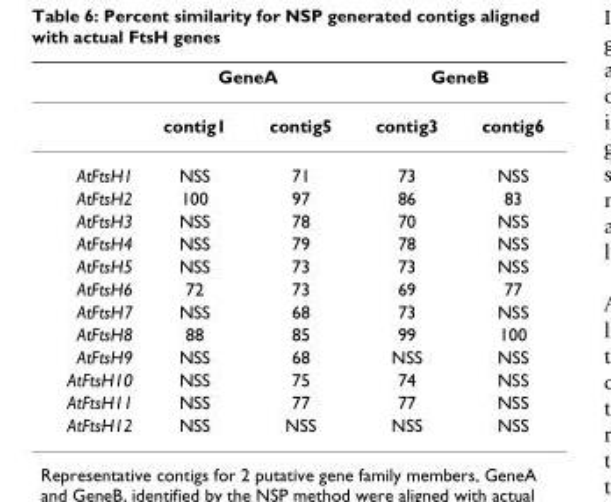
<table><thead><tr><td rowspan="2"></td><td colspan="2">GeneA</td><td colspan="2">GeneB</td></tr><tr><td>contig1</td><td>contig5</td><td>contig3</td><td>contig6</td></tr></thead><tbody><tr><td>AtFtsH1</td><td>NSS</td><td>71</td><td>73</td><td>NSS</td></tr><tr><td>AtFtsH2</td><td>100</td><td>97</td><td>86</td><td>83</td></tr><tr><td>AtFtsH3</td><td>NSS</td><td>78</td><td>70</td><td>NSS</td></tr><tr><td>AtFtsH4</td><td>NSS</td><td>79</td><td>78</td><td>NSS</td></tr><tr><td>AtFtsH5</td><td>NSS</td><td>73</td><td>73</td><td>NSS</td></tr><tr><td>AtFtsH6</td><td>72</td><td>73</td><td>69</td><td>77</td></tr><tr><td>AtFtsH7</td><td>NSS</td><td>68</td><td>73</td><td>NSS</td></tr><tr><td>AtFtsH8</td><td>88</td><td>85</td><td>99</td><td>100</td></tr><tr><td>AtFtsH9</td><td>NSS</td><td>68</td><td>NSS</td><td>NSS</td></tr><tr><td>AtFtsH10</td><td>NSS</td><td>75</td><td>74</td><td>NSS</td></tr><tr><td>AtFtsH11</td><td>NSS</td><td>77</td><td>77</td><td>NSS</td></tr><tr><td>AtFtsH12</td><td>NSS</td><td>NSS</td><td>NSS</td><td>NSS</td></tr></tbody></table>